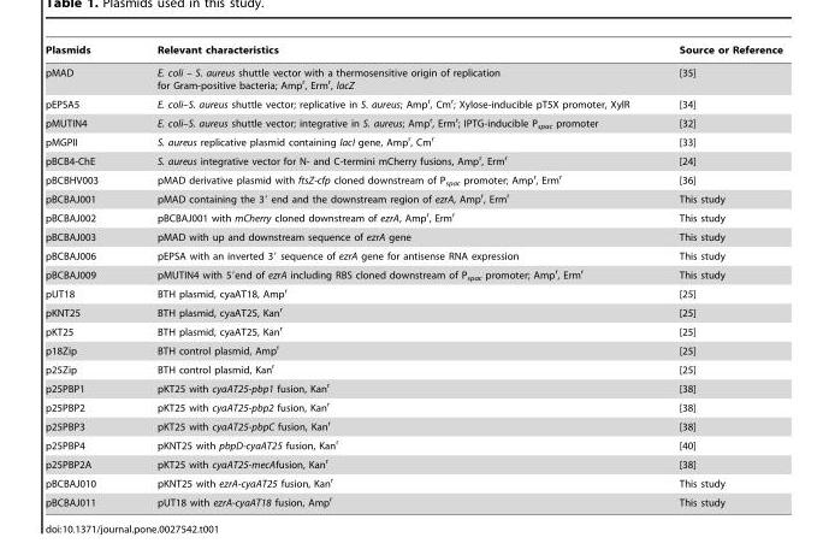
<table><thead><tr><td>Plasmids</td><td>Relevant characteristics</td><td>Source or Reference</td></tr></thead><tbody><tr><td>pMAD</td><td>E. coli – S. aureus shuttle vector with a thermosensitive origin of replication for Gram-positive bacteria; Amp<sup>r</sup>, Erm<sup>r</sup>, lacZ</td><td>[35]</td></tr><tr><td>pEPSA5</td><td>E. coli–S. aureus shuttle vector; replicative in S. aureus; Amp<sup>r</sup>, Cm<sup>r</sup>; Xylose-inducible pT5X promoter, XylR</td><td>[34]</td></tr><tr><td>pMUTIN4</td><td>E. coli–S. aureus shuttle vector; integrative in S. aureus; Amp<sup>r</sup>, Erm<sup>r</sup>; IPTG-inducible P<sub>spac</sub> promoter</td><td>[32]</td></tr><tr><td>pMGPII</td><td>S. aureus replicative plasmid containing lacI gene, Amp<sup>r</sup>, Cm<sup>r</sup></td><td>[33]</td></tr><tr><td>pBCB4-ChE</td><td>S. aureus integrative vector for N- and C-termini mCherry fusions, Amp<sup>r</sup>, Erm<sup>r</sup></td><td>[24]</td></tr><tr><td>pBCBHV003</td><td>pMAD derivative plasmid with ftsZ-cfp cloned downstream of P<sub>spac</sub> promoter; Amp<sup>r</sup>, Erm<sup>r</sup></td><td>[36]</td></tr><tr><td>pBCBAJ001</td><td>pMAD containing the 3′ end and the downstream region of ezrA, Amp<sup>r</sup>, Erm<sup>r</sup></td><td>This study</td></tr><tr><td>pBCBAJ002</td><td>pBCBAJ001 with mCherry cloned downstream of ezrA, Amp<sup>r</sup>, Erm<sup>r</sup></td><td>This study</td></tr><tr><td>pBCBAJ003</td><td>pMAD with up and downstream sequence of ezrA gene</td><td>This study</td></tr><tr><td>pBCBAJ006</td><td>pEPSA with an inverted 3′ sequence of ezrA gene for antisense RNA expression</td><td>This study</td></tr><tr><td>pBCBAJ009</td><td>pMUTIN4 with 5′end of ezrA including RBS cloned downstream of P<sub>spac</sub> promoter; Amp<sup>r</sup>, Erm<sup>r</sup></td><td>This study</td></tr><tr><td>pUT18</td><td>BTH plasmid, cyaAT18, Amp<sup>r</sup></td><td>[25]</td></tr><tr><td>pKNT25</td><td>BTH plasmid, cyaAT25, Kan<sup>r</sup></td><td>[25]</td></tr><tr><td>pKT25</td><td>BTH plasmid, cyaAT25, Kan<sup>r</sup></td><td>[25]</td></tr><tr><td>p18Zip</td><td>BTH control plasmid, Amp<sup>r</sup></td><td>[25]</td></tr><tr><td>p25Zip</td><td>BTH control plasmid, Kan<sup>r</sup></td><td>[25]</td></tr><tr><td>p25PBP1</td><td>pKT25 with cyaAT25-pbp1 fusion, Kan<sup>r</sup></td><td>[38]</td></tr><tr><td>p25PBP2</td><td>pKT25 with cyaAT25-pbp2 fusion, Kan<sup>r</sup></td><td>[38]</td></tr><tr><td>p25PBP3</td><td>pKT25 with cyaAT25-pbpC fusion, Kan<sup>r</sup></td><td>[38]</td></tr><tr><td>p25PBP4</td><td>pKNT25 with pbpD-cyaAT25 fusion, Kan<sup>r</sup></td><td>[40]</td></tr><tr><td>p25PBP2A</td><td>pKT25 with cyaAT25-mecAfusion, Kan<sup>r</sup></td><td>[38]</td></tr><tr><td>pBCBAJ010</td><td>pKNT25 with ezrA-cyaAT25 fusion, Kan<sup>r</sup></td><td>This study</td></tr><tr><td>pBCBAJ011</td><td>pUT18 with ezrA-cyaAT18 fusion, Amp<sup>r</sup></td><td>This study</td></tr></tbody></table>